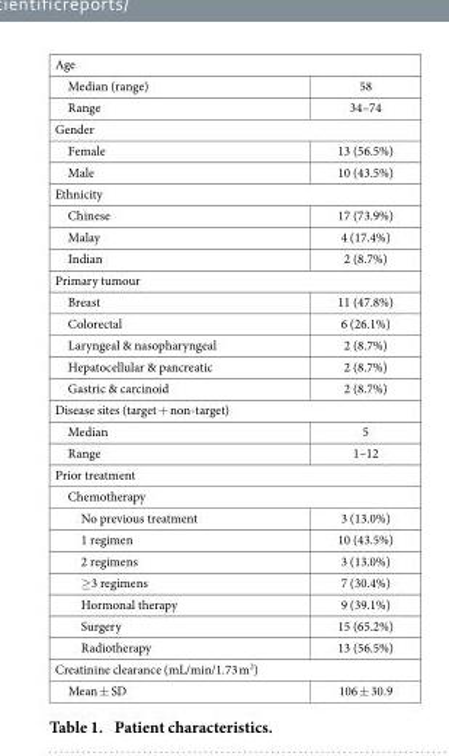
<table><tbody><tr><td colspan="2">Age</td></tr><tr><td>Median (range)</td><td>58</td></tr><tr><td>Range</td><td>34–74</td></tr><tr><td colspan="2">Gender</td></tr><tr><td>Female</td><td>13 (56.5%)</td></tr><tr><td>Male</td><td>10 (43.5%)</td></tr><tr><td colspan="2">Ethnicity</td></tr><tr><td>Chinese</td><td>17 (73.9%)</td></tr><tr><td>Malay</td><td>4 (17.4%)</td></tr><tr><td>Indian</td><td>2 (8.7%)</td></tr><tr><td colspan="2">Primary tumour</td></tr><tr><td>Breast</td><td>11 (47.8%)</td></tr><tr><td>Colorectal</td><td>6 (26.1%)</td></tr><tr><td>Laryngeal &amp; nasopharyngeal</td><td>2 (8.7%)</td></tr><tr><td>Hepatocellular &amp; pancreatic</td><td>2 (8.7%)</td></tr><tr><td>Gastric &amp; carcinoid</td><td>2 (8.7%)</td></tr><tr><td colspan="2">Disease sites (target + non-target)</td></tr><tr><td>Median</td><td>5</td></tr><tr><td>Range</td><td>1–12</td></tr><tr><td colspan="2">Prior treatment</td></tr><tr><td colspan="2">Chemotherapy</td></tr><tr><td>No previous treatment</td><td>3 (13.0%)</td></tr><tr><td>1 regimen</td><td>10 (43.5%)</td></tr><tr><td>2 regimens</td><td>3 (13.0%)</td></tr><tr><td>≥3 regimens</td><td>7 (30.4%)</td></tr><tr><td>Hormonal therapy</td><td>9 (39.1%)</td></tr><tr><td>Surgery</td><td>15 (65.2%)</td></tr><tr><td>Radiotherapy</td><td>13 (56.5%)</td></tr><tr><td colspan="2">Creatinine clearance (mL/min/1.73 m<sup>2</sup>)</td></tr><tr><td>Mean ± SD</td><td>106 ± 30.9</td></tr></tbody></table>